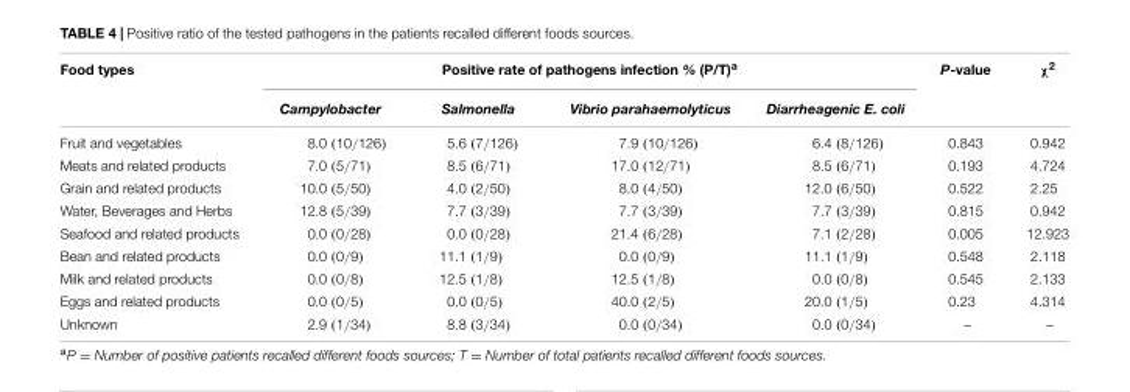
<table><thead><tr><td rowspan="2">Food types</td><td colspan="4">Positive rate of pathogens infection % (P/T)<sup>a</sup></td><td rowspan="2">P-value</td><td rowspan="2">χ<sup>2</sup></td></tr><tr><td>Campylobacter</td><td>Salmonella</td><td>Vibrio parahaemolyticus</td><td>Diarrheagenic E. coli</td></tr></thead><tbody><tr><td>Fruit and vegetables</td><td>8.0 (10/126)</td><td>5.6 (7/126)</td><td>7.9 (10/126)</td><td>6.4 (8/126)</td><td>0.843</td><td>0.942</td></tr><tr><td>Meats and related products</td><td>7.0 (5/71)</td><td>8.5 (6/71)</td><td>17.0 (12/71)</td><td>8.5 (6/71)</td><td>0.193</td><td>4.724</td></tr><tr><td>Grain and related products</td><td>10.0 (5/50)</td><td>4.0 (2/50)</td><td>8.0 (4/50)</td><td>12.0 (6/50)</td><td>0.522</td><td>2.25</td></tr><tr><td>Water, Beverages and Herbs</td><td>12.8 (5/39)</td><td>7.7 (3/39)</td><td>7.7 (3/39)</td><td>7.7 (3/39)</td><td>0.815</td><td>0.942</td></tr><tr><td>Seafood and related products</td><td>0.0 (0/28)</td><td>0.0 (0/28)</td><td>21.4 (6/28)</td><td>7.1 (2/28)</td><td>0.005</td><td>12.923</td></tr><tr><td>Bean and related products</td><td>0.0 (0/9)</td><td>11.1 (1/9)</td><td>0.0 (0/9)</td><td>11.1 (1/9)</td><td>0.548</td><td>2.118</td></tr><tr><td>Milk and related products</td><td>0.0 (0/8)</td><td>12.5 (1/8)</td><td>12.5 (1/8)</td><td>0.0 (0/8)</td><td>0.545</td><td>2.133</td></tr><tr><td>Eggs and related products</td><td>0.0 (0/5)</td><td>0.0 (0/5)</td><td>40.0 (2/5)</td><td>20.0 (1/5)</td><td>0.23</td><td>4.314</td></tr><tr><td>Unknown</td><td>2.9 (1/34)</td><td>8.8 (3/34)</td><td>0.0 (0/34)</td><td>0.0 (0/34)</td><td>–</td><td>–</td></tr></tbody></table>